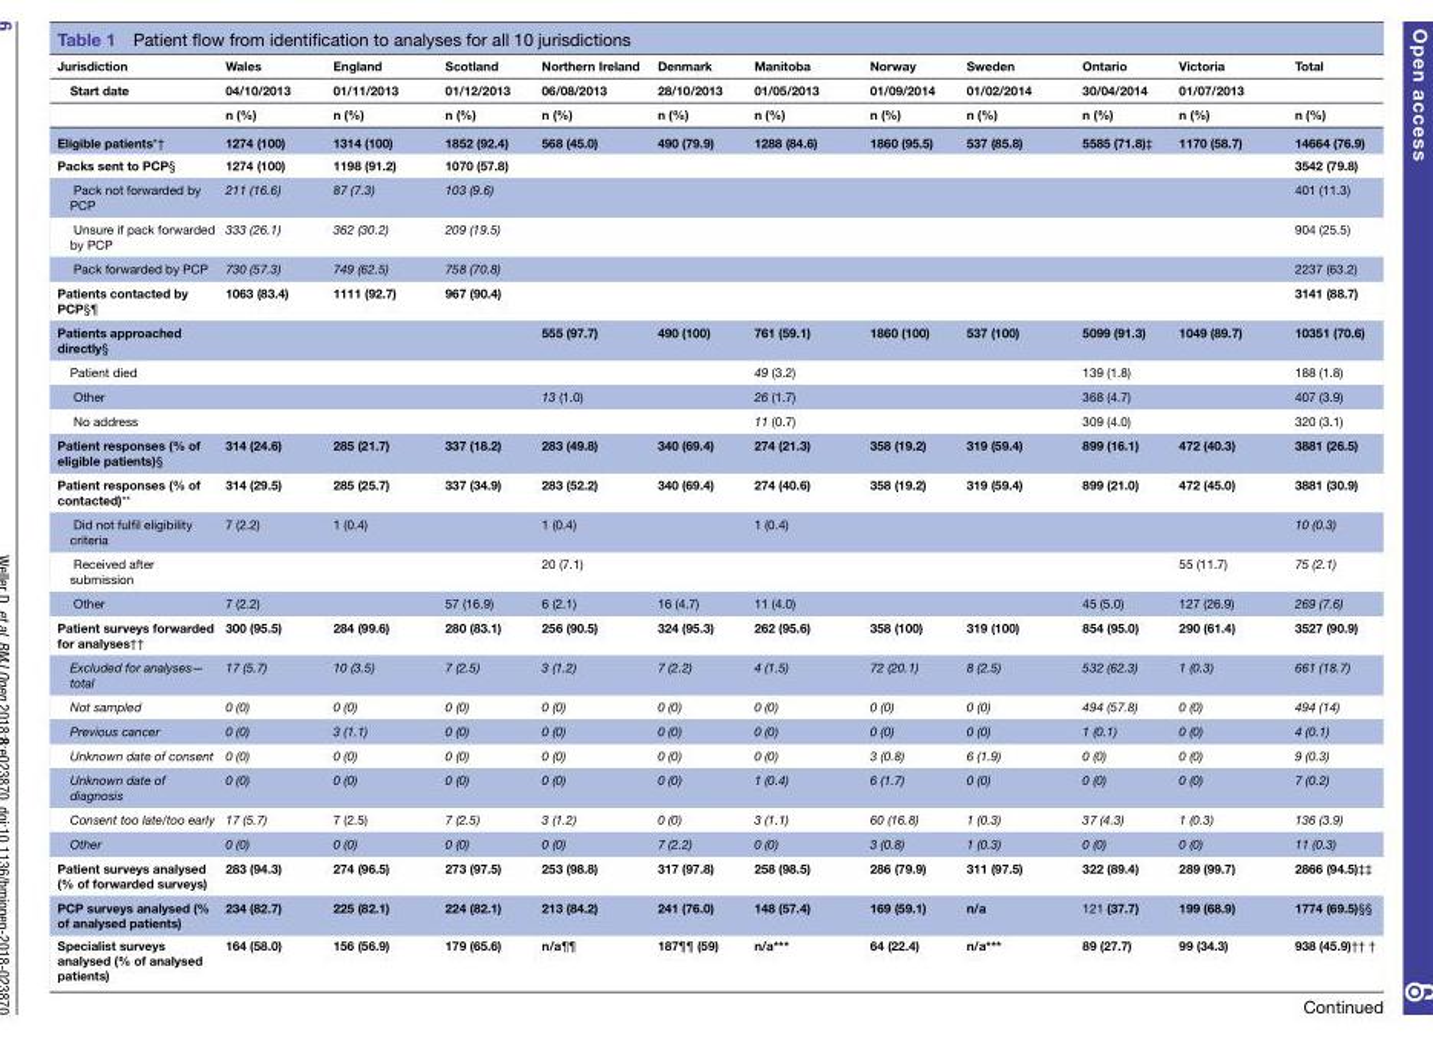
<table><thead><tr><td rowspan="3">Jurisdiction Start date</td><td rowspan="3">Wales 04/10/2013 n (%)</td><td rowspan="3">England 01/11/2013 n (%)</td><td rowspan="3">Scotland 01/12/2013 n (%)</td><td rowspan="3">Northern Ireland 06/08/2013 n (%)</td><td rowspan="3">Denmark 28/10/2013 n (%)</td><td rowspan="3">Manitoba 01/05/2013 n (%)</td><td rowspan="3">Norway 01/09/2014 n (%)</td><td rowspan="3">Sweden 01/02/2014 n (%)</td><td rowspan="3">Ontario 30/04/2014 n (%)</td><td rowspan="3">Victoria 01/07/2013 n (%)</td><td rowspan="3">Total n (%)</td></tr><tr></tr><tr></tr></thead><tbody><tr><td>Eligible patients*†</td><td>1274 (100)</td><td>1314 (100)</td><td>1852 (92.4)</td><td>568 (45.0)</td><td>490 (79.9)</td><td>1288 (84.6)</td><td>1860 (95.5)</td><td>537 (85.8)</td><td>5585 (71.8)‡</td><td>1170 (58.7)</td><td>14664 (76.9)</td></tr><tr><td>Packs sent to PCP§</td><td>1274 (100)</td><td>1198 (91.2)</td><td>1070 (57.8)</td><td></td><td></td><td></td><td></td><td></td><td></td><td></td><td>3542 (79.8)</td></tr><tr><td>Pack not forwarded by PCP</td><td>211 (16.6)</td><td>87 (7.3)</td><td>103 (9.6)</td><td></td><td></td><td></td><td></td><td></td><td></td><td></td><td>401 (11.3)</td></tr><tr><td>Unsure if pack forwarded by PCP</td><td>333 (26.1)</td><td>362 (30.2)</td><td>209 (19.5)</td><td></td><td></td><td></td><td></td><td></td><td></td><td></td><td>904 (25.5)</td></tr><tr><td>Pack forwarded by PCP</td><td>730 (57.3)</td><td>749 (62.5)</td><td>758 (70.8)</td><td></td><td></td><td></td><td></td><td></td><td></td><td></td><td>2237 (63.2)</td></tr><tr><td>Patients contacted by PCP§¶</td><td>1063 (83.4)</td><td>1111 (92.7)</td><td>967 (90.4)</td><td></td><td></td><td></td><td></td><td></td><td></td><td></td><td>3141 (88.7)</td></tr><tr><td>Patients approached directly§</td><td></td><td></td><td></td><td>555 (97.7)</td><td>490 (100)</td><td>761 (59.1)</td><td>1860 (100)</td><td>537 (100)</td><td>5099 (91.3)</td><td>1049 (89.7)</td><td>10351 (70.6)</td></tr><tr><td>Patient died</td><td></td><td></td><td></td><td></td><td></td><td>49 (3.2)</td><td></td><td></td><td>139 (1.8)</td><td></td><td>188 (1.8)</td></tr><tr><td>Other</td><td></td><td></td><td></td><td>13 (1.0)</td><td></td><td>26 (1.7)</td><td></td><td></td><td>368 (4.7)</td><td></td><td>407 (3.9)</td></tr><tr><td>No address</td><td></td><td></td><td></td><td></td><td></td><td>11 (0.7)</td><td></td><td></td><td>309 (4.0)</td><td></td><td>320 (3.1)</td></tr><tr><td>Patient responses (% of eligible patients)§</td><td>314 (24.6)</td><td>285 (21.7)</td><td>337 (18.2)</td><td>283 (49.8)</td><td>340 (69.4)</td><td>274 (21.3)</td><td>358 (19.2)</td><td>319 (59.4)</td><td>899 (16.1)</td><td>472 (40.3)</td><td>3881 (26.5)</td></tr><tr><td>Patient responses (% of contacted)**</td><td>314 (29.5)</td><td>285 (25.7)</td><td>337 (34.9)</td><td>283 (52.2)</td><td>340 (69.4)</td><td>274 (40.6)</td><td>358 (19.2)</td><td>319 (59.4)</td><td>899 (21.0)</td><td>472 (45.0)</td><td>3881 (30.9)</td></tr><tr><td>Did not fulfil eligibility criteria</td><td>7 (2.2)</td><td>1 (0.4)</td><td></td><td>1 (0.4)</td><td></td><td>1 (0.4)</td><td></td><td></td><td></td><td></td><td>10 (0.3)</td></tr><tr><td>Received after submission</td><td></td><td></td><td></td><td>20 (7.1)</td><td></td><td></td><td></td><td></td><td></td><td>55 (11.7)</td><td>75 (2.1)</td></tr><tr><td>Other</td><td>7 (2.2)</td><td></td><td>57 (16.9)</td><td>6 (2.1)</td><td>16 (4.7)</td><td>11 (4.0)</td><td></td><td></td><td>45 (5.0)</td><td>127 (26.9)</td><td>269 (7.6)</td></tr><tr><td>Patient surveys forwarded for analyses††</td><td>300 (95.5)</td><td>284 (99.6)</td><td>280 (83.1)</td><td>256 (90.5)</td><td>324 (95.3)</td><td>262 (95.6)</td><td>358 (100)</td><td>319 (100)</td><td>854 (95.0)</td><td>290 (61.4)</td><td>3527 (90.9)</td></tr><tr><td>Excluded for analyses— total</td><td>17 (5.7)</td><td>10 (3.5)</td><td>7 (2.5)</td><td>3 (1.2)</td><td>7 (2.2)</td><td>4 (1.5)</td><td>72 (20.1)</td><td>8 (2.5)</td><td>532 (62.3)</td><td>1 (0.3)</td><td>661 (18.7)</td></tr><tr><td>Not sampled</td><td>0 (0)</td><td>0 (0)</td><td>0 (0)</td><td>0 (0)</td><td>0 (0)</td><td>0 (0)</td><td>0 (0)</td><td>0 (0)</td><td>494 (57.8)</td><td>0 (0)</td><td>494 (14)</td></tr><tr><td>Previous cancer</td><td>0 (0)</td><td>3 (1.1)</td><td>0 (0)</td><td>0 (0)</td><td>0 (0)</td><td>0 (0)</td><td>0 (0)</td><td>0 (0)</td><td>1 (0.1)</td><td>0 (0)</td><td>4 (0.1)</td></tr><tr><td>Unknown date of consent</td><td>0 (0)</td><td>0 (0)</td><td>0 (0)</td><td>0 (0)</td><td>0 (0)</td><td>0 (0)</td><td>3 (0.8)</td><td>6 (1.9)</td><td>0 (0)</td><td>0 (0)</td><td>9 (0.3)</td></tr><tr><td>Unknown date of diagnosis</td><td>0 (0)</td><td>0 (0)</td><td>0 (0)</td><td>0 (0)</td><td>0 (0)</td><td>1 (0.4)</td><td>6 (1.7)</td><td>0 (0)</td><td>0 (0)</td><td>0 (0)</td><td>7 (0.2)</td></tr><tr><td>Consent too late/too early</td><td>17 (5.7)</td><td>7 (2.5)</td><td>7 (2.5)</td><td>3 (1.2)</td><td>0 (0)</td><td>3 (1.1)</td><td>60 (16.8)</td><td>1 (0.3)</td><td>37 (4.3)</td><td>1 (0.3)</td><td>136 (3.9)</td></tr><tr><td>Other</td><td>0 (0)</td><td>0 (0)</td><td>0 (0)</td><td>0 (0)</td><td>7 (2.2)</td><td>0 (0)</td><td>3 (0.8)</td><td>1 (0.3)</td><td>0 (0)</td><td>0 (0)</td><td>11 (0.3)</td></tr><tr><td>Patient surveys analysed (% of forwarded surveys)</td><td>283 (94.3)</td><td>274 (96.5)</td><td>273 (97.5)</td><td>253 (98.8)</td><td>317 (97.8)</td><td>258 (98.5)</td><td>286 (79.9)</td><td>311 (97.5)</td><td>322 (89.4)</td><td>289 (99.7)</td><td>2866 (94.5)‡‡</td></tr><tr><td>PCP surveys analysed (% of analysed patients)</td><td>234 (82.7)</td><td>225 (82.1)</td><td>224 (82.1)</td><td>213 (84.2)</td><td>241 (76.0)</td><td>148 (57.4)</td><td>169 (59.1)</td><td>n/a</td><td>121 (37.7)</td><td>199 (68.9)</td><td>1774 (69.5)§§</td></tr><tr><td>Specialist surveys analysed (% of analysed patients)</td><td>164 (58.0)</td><td>156 (56.9)</td><td>179 (65.6)</td><td>n/a¶¶</td><td>187¶¶ (59)</td><td>n/a***</td><td>64 (22.4)</td><td>n/a***</td><td>89 (27.7)</td><td>99 (34.3)</td><td>938 (45.9)†† †</td></tr></tbody></table>